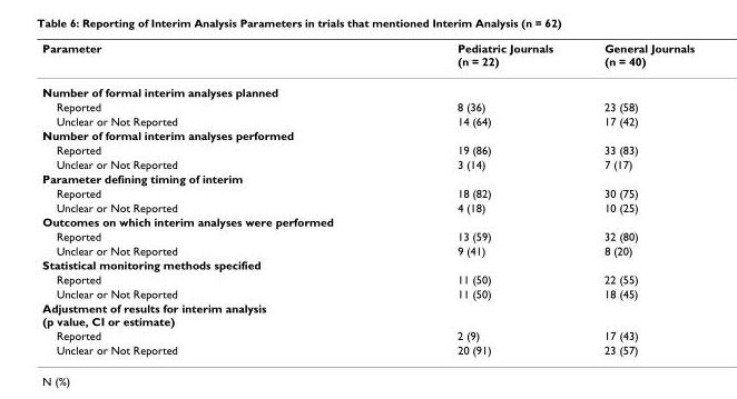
<table><thead><tr><td>Parameter</td><td>Pediatric Journals (n = 22)</td><td>General Journals (n = 40)</td></tr></thead><tbody><tr><td colspan="3">Number of formal interim analyses planned</td></tr><tr><td>Reported</td><td>8 (36)</td><td>23 (58)</td></tr><tr><td>Unclear or Not Reported</td><td>14 (64)</td><td>17 (42)</td></tr><tr><td colspan="3">Number of formal interim analyses performed</td></tr><tr><td>Reported</td><td>19 (86)</td><td>33 (83)</td></tr><tr><td>Unclear or Not Reported</td><td>3 (14)</td><td>7 (17)</td></tr><tr><td colspan="3">Parameter defining timing of interim</td></tr><tr><td>Reported</td><td>18 (82)</td><td>30 (75)</td></tr><tr><td>Unclear or Not Reported</td><td>4 (18)</td><td>10 (25)</td></tr><tr><td colspan="3">Outcomes on which interim analyses were performed</td></tr><tr><td>Reported</td><td>13 (59)</td><td>32 (80)</td></tr><tr><td>Unclear or Not Reported</td><td>9 (41)</td><td>8 (20)</td></tr><tr><td colspan="3">Statistical monitoring methods specified</td></tr><tr><td>Reported</td><td>11 (50)</td><td>22 (55)</td></tr><tr><td>Unclear or Not Reported</td><td>11 (50)</td><td>18 (45)</td></tr><tr><td colspan="3">Adjustment of results for interim analysis (p value, CI or estimate)</td></tr><tr><td>Reported</td><td>2 (9)</td><td>17 (43)</td></tr><tr><td>Unclear or Not Reported</td><td>20 (91)</td><td>23 (57)</td></tr></tbody></table>